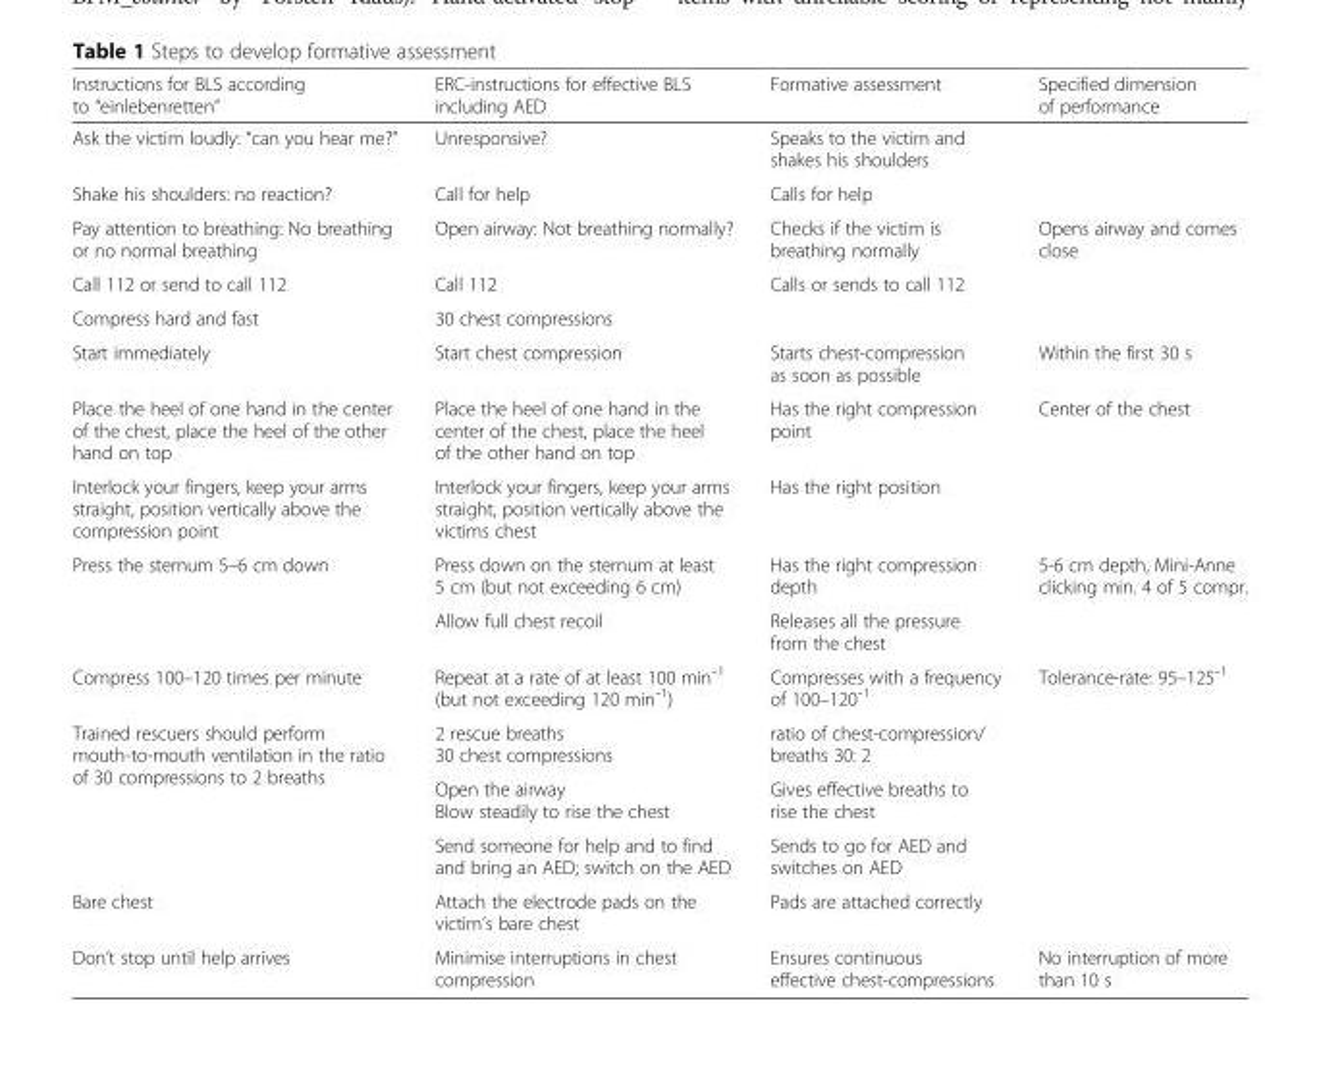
<table><thead><tr><td>Instructions for BLS according to “einlebenretten”</td><td>ERC-instructions for effective BLS including AED</td><td>Formative assessment</td><td>Specified dimension of performance</td></tr></thead><tbody><tr><td>Ask the victim loudly: “can you hear me?”</td><td>Unresponsive?</td><td>Speaks to the victim and shakes his shoulders</td><td></td></tr><tr><td>Shake his shoulders: no reaction?</td><td>Call for help</td><td>Calls for help</td><td></td></tr><tr><td>Pay attention to breathing: No breathing or no normal breathing</td><td>Open airway: Not breathing normally?</td><td>Checks if the victim is breathing normally</td><td>Opens airway and comes close</td></tr><tr><td>Call 112 or send to call 112</td><td>Call 112</td><td>Calls or sends to call 112</td><td></td></tr><tr><td>Compress hard and fast</td><td>30 chest compressions</td><td></td><td></td></tr><tr><td>Start immediately</td><td>Start chest compression</td><td>Starts chest-compression as soon as possible</td><td>Within the first 30 s</td></tr><tr><td>Place the heel of one hand in the center of the chest, place the heel of the other hand on top</td><td>Place the heel of one hand in the center of the chest, place the heel of the other hand on top</td><td>Has the right compression point</td><td>Center of the chest</td></tr><tr><td>Interlock your fingers, keep your arms straight, position vertically above the compression point</td><td>Interlock your fingers, keep your arms straight, position vertically above the victims chest</td><td>Has the right position</td><td></td></tr><tr><td rowspan="2">Press the sternum 5–6 cm down</td><td>Press down on the sternum at least 5 cm (but not exceeding 6 cm)</td><td>Has the right compression depth</td><td rowspan="2">5-6 cm depth, Mini-Anne clicking min. 4 of 5 compr.</td></tr><tr><td>Allow full chest recoil</td><td>Releases all the pressure from the chest</td></tr><tr><td>Compress 100–120 times per minute</td><td>Repeat at a rate of at least 100 min¯<sup>1</sup> (but not exceeding 120 min¯<sup>1</sup>)</td><td>Compresses with a frequency of 100–120¯<sup>1</sup></td><td>Tolerance-rate: 95–125¯<sup>1</sup></td></tr><tr><td rowspan="3">Trained rescuers should perform mouth-to-mouth ventilation in the ratio of 30 compressions to 2 breaths</td><td>2 rescue breaths 30 chest compressions</td><td>ratio of chest-compression/ breaths 30: 2</td><td rowspan="3"></td></tr><tr><td>Open the airway Blow steadily to rise the chest</td><td>Gives effective breaths to rise the chest</td></tr><tr><td>Send someone for help and to find and bring an AED; switch on the AED</td><td>Sends to go for AED and switches on AED</td></tr><tr><td>Bare chest</td><td>Attach the electrode pads on the victim’s bare chest</td><td>Pads are attached correctly</td><td></td></tr><tr><td>Don’t stop until help arrives</td><td>Minimise interruptions in chest compression</td><td>Ensures continuous effective chest-compressions</td><td>No interruption of more than 10 s</td></tr></tbody></table>